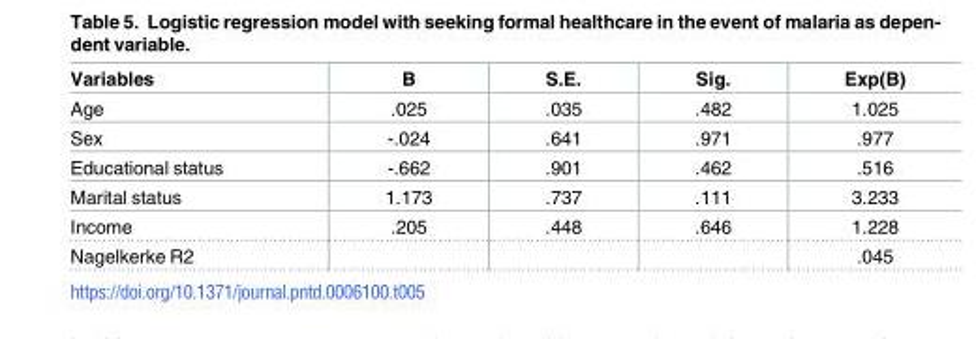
<table><thead><tr><td>Variables</td><td>B</td><td>S.E.</td><td>Sig.</td><td>Exp(B)</td></tr></thead><tbody><tr><td>Age</td><td>.025</td><td>.035</td><td>.482</td><td>1.025</td></tr><tr><td>Sex</td><td>-.024</td><td>.641</td><td>.971</td><td>.977</td></tr><tr><td>Educational status</td><td>-.662</td><td>.901</td><td>.462</td><td>.516</td></tr><tr><td>Marital status</td><td>1.173</td><td>.737</td><td>.111</td><td>3.233</td></tr><tr><td>Income</td><td>.205</td><td>.448</td><td>.646</td><td>1.228</td></tr><tr><td>Nagelkerke R2</td><td></td><td></td><td></td><td>.045</td></tr></tbody></table>